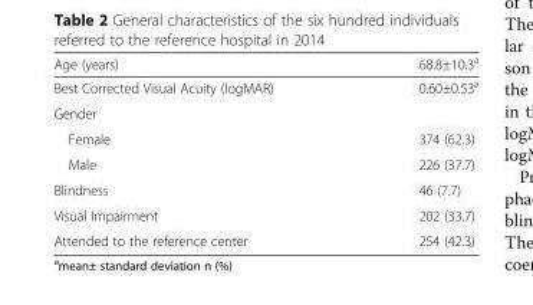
<table><thead><tr><td>Age (years)</td><td>68.8±10.3<sup>a</sup></td></tr></thead><tbody><tr><td>Best Corrected Visual Acuity (logMAR)</td><td>0.60±0.53<sup>a</sup></td></tr><tr><td colspan="2">Gender</td></tr><tr><td>Female</td><td>374 (62.3)</td></tr><tr><td>Male</td><td>226 (37.7)</td></tr><tr><td>Blindness</td><td>46 (7.7)</td></tr><tr><td>Visual Impairment</td><td>202 (33.7)</td></tr><tr><td>Attended to the reference center</td><td>254 (42.3)</td></tr></tbody></table>